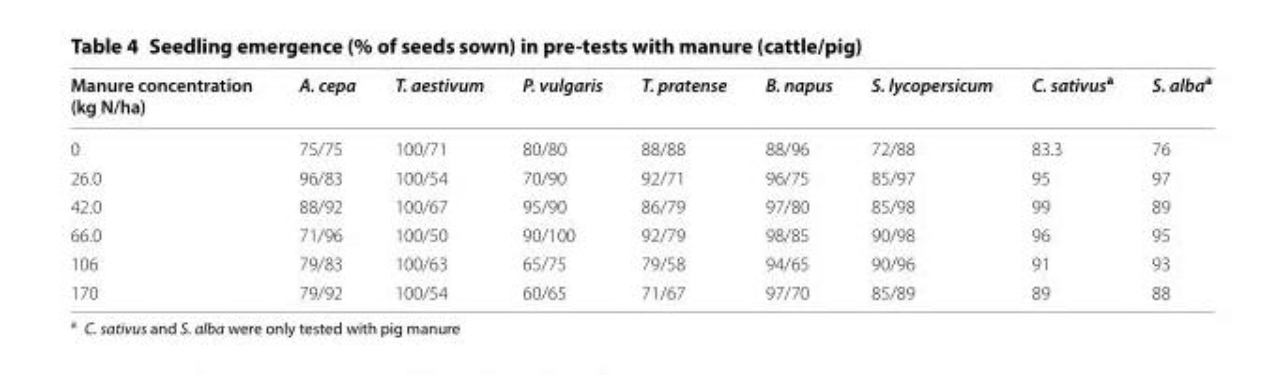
<table><thead><tr><td>Manure concentration (kg N/ha)</td><td>A. cepa</td><td>T. aestivum</td><td>P. vulgaris</td><td>T. pratense</td><td>B. napus</td><td>S. lycopersicum</td><td>C. sativus<sup>a</sup></td><td>S. alba<sup>a</sup></td></tr></thead><tbody><tr><td>0</td><td>75/75</td><td>100/71</td><td>80/80</td><td>88/88</td><td>88/96</td><td>72/88</td><td>83.3</td><td>76</td></tr><tr><td>26.0</td><td>96/83</td><td>100/54</td><td>70/90</td><td>92/71</td><td>96/75</td><td>85/97</td><td>95</td><td>97</td></tr><tr><td>42.0</td><td>88/92</td><td>100/67</td><td>95/90</td><td>86/79</td><td>97/80</td><td>85/98</td><td>99</td><td>89</td></tr><tr><td>66.0</td><td>71/96</td><td>100/50</td><td>90/100</td><td>92/79</td><td>98/85</td><td>90/98</td><td>96</td><td>95</td></tr><tr><td>106</td><td>79/83</td><td>100/63</td><td>65/75</td><td>79/58</td><td>94/65</td><td>90/96</td><td>91</td><td>93</td></tr><tr><td>170</td><td>79/92</td><td>100/54</td><td>60/65</td><td>71/67</td><td>97/70</td><td>85/89</td><td>89</td><td>88</td></tr></tbody></table>